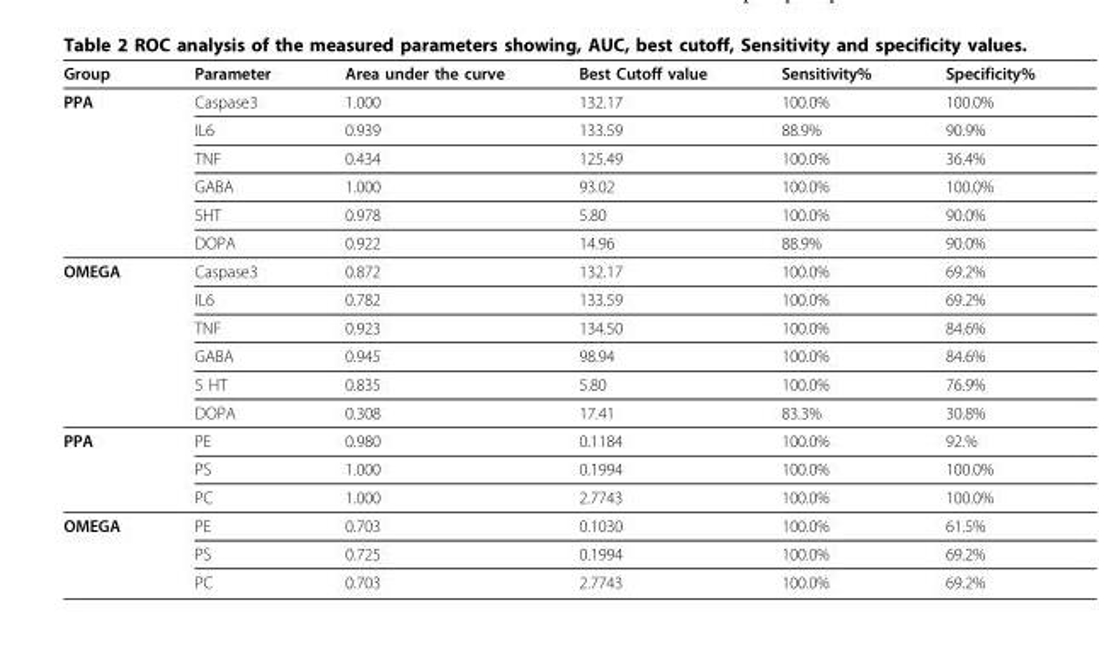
<table><thead><tr><td>Group</td><td>Parameter</td><td>Area under the curve</td><td>Best Cutoff value</td><td>Sensitivity%</td><td>Specificity%</td></tr></thead><tbody><tr><td rowspan="6">PPA</td><td>Caspase3</td><td>1.000</td><td>132.17</td><td>100.0%</td><td>100.0%</td></tr><tr><td>IL6</td><td>0.939</td><td>133.59</td><td>88.9%</td><td>90.9%</td></tr><tr><td>TNF</td><td>0.434</td><td>125.49</td><td>100.0%</td><td>36.4%</td></tr><tr><td>GABA</td><td>1.000</td><td>93.02</td><td>100.0%</td><td>100.0%</td></tr><tr><td>5HT</td><td>0.978</td><td>5.80</td><td>100.0%</td><td>90.0%</td></tr><tr><td>DOPA</td><td>0.922</td><td>14.96</td><td>88.9%</td><td>90.0%</td></tr><tr><td rowspan="6">OMEGA</td><td>Caspase3</td><td>0.872</td><td>132.17</td><td>100.0%</td><td>69.2%</td></tr><tr><td>IL6</td><td>0.782</td><td>133.59</td><td>100.0%</td><td>69.2%</td></tr><tr><td>TNF</td><td>0.923</td><td>134.50</td><td>100.0%</td><td>84.6%</td></tr><tr><td>GABA</td><td>0.945</td><td>98.94</td><td>100.0%</td><td>84.6%</td></tr><tr><td>5 HT</td><td>0.835</td><td>5.80</td><td>100.0%</td><td>76.9%</td></tr><tr><td>DOPA</td><td>0.308</td><td>17.41</td><td>83.3%</td><td>30.8%</td></tr><tr><td rowspan="3">PPA</td><td>PE</td><td>0.980</td><td>0.1184</td><td>100.0%</td><td>92.%</td></tr><tr><td>PS</td><td>1.000</td><td>0.1994</td><td>100.0%</td><td>100.0%</td></tr><tr><td>PC</td><td>1.000</td><td>2.7743</td><td>100.0%</td><td>100.0%</td></tr><tr><td rowspan="3">OMEGA</td><td>PE</td><td>0.703</td><td>0.1030</td><td>100.0%</td><td>61.5%</td></tr><tr><td>PS</td><td>0.725</td><td>0.1994</td><td>100.0%</td><td>69.2%</td></tr><tr><td>PC</td><td>0.703</td><td>2.7743</td><td>100.0%</td><td>69.2%</td></tr></tbody></table>